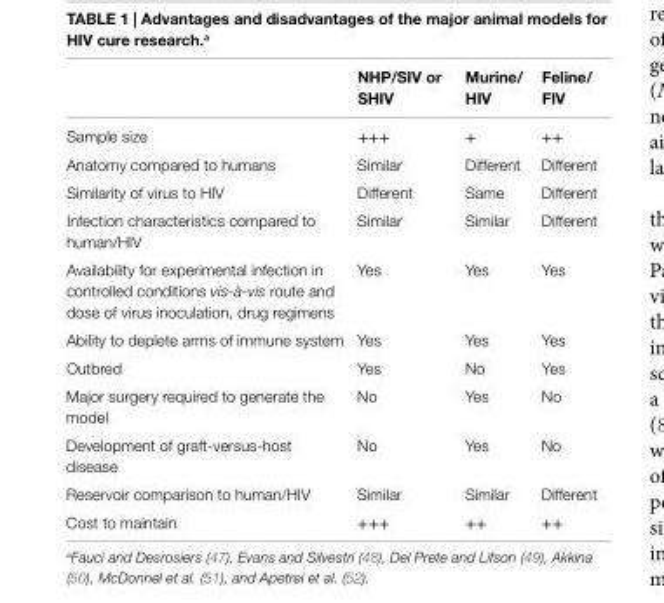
<table><thead><tr><td></td><td>NHP/Siv or SHiv</td><td>Murine/ Hiv</td><td>Feline/ Fiv</td></tr></thead><tbody><tr><td>Sample size</td><td>+++</td><td>+</td><td>++</td></tr><tr><td>Anatomy compared to humans</td><td>Similar</td><td>Different</td><td>Different</td></tr><tr><td>Similarity of virus to HIV</td><td>Different</td><td>Same</td><td>Different</td></tr><tr><td>Infection characteristics compared to human/HIV</td><td>Similar</td><td>Similar</td><td>Different</td></tr><tr><td>Availability for experimental infection in controlled conditions vis-à-vis route and dose of virus inoculation, drug regimens</td><td>Yes</td><td>Yes</td><td>Yes</td></tr><tr><td>Ability to deplete arms of immune system</td><td>Yes</td><td>Yes</td><td>Yes</td></tr><tr><td>Outbred</td><td>Yes</td><td>No</td><td>Yes</td></tr><tr><td>Major surgery required to generate the model</td><td>No</td><td>Yes</td><td>No</td></tr><tr><td>Development of graft-versus-host disease</td><td>No</td><td>Yes</td><td>No</td></tr><tr><td>Reservoir comparison to human/HIV</td><td>Similar</td><td>Similar</td><td>Different</td></tr><tr><td>Cost to maintain</td><td>+++</td><td>++</td><td>++</td></tr></tbody></table>